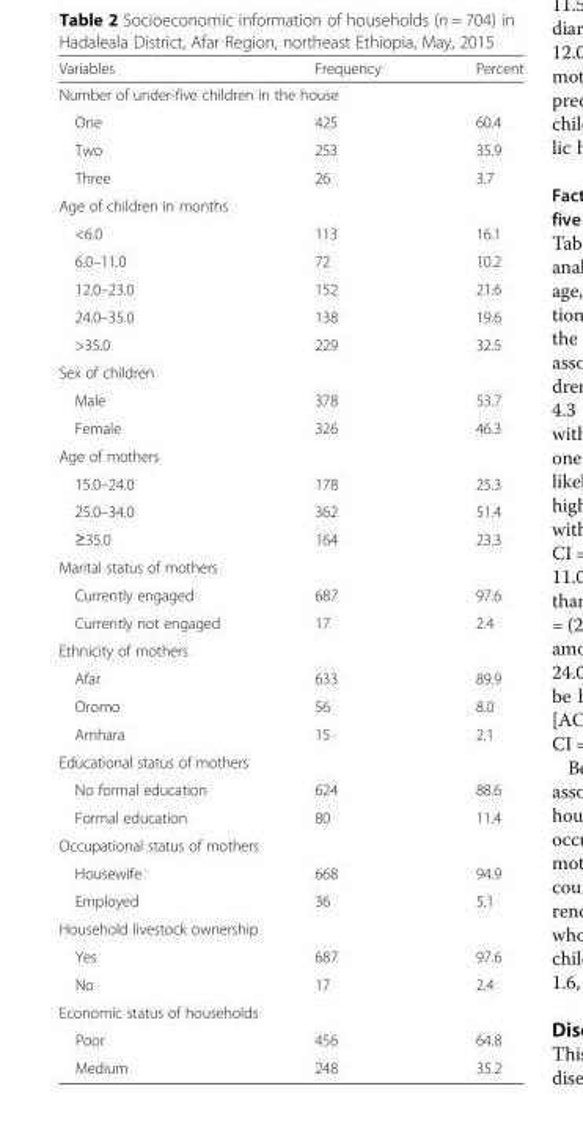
<table><thead><tr><td>Variables</td><td>Frequency</td><td>Percent</td></tr></thead><tbody><tr><td colspan="3">Number of under-five children in the house</td></tr><tr><td>One</td><td>425</td><td>60.4</td></tr><tr><td>Two</td><td>253</td><td>35.9</td></tr><tr><td>Three</td><td>26</td><td>3.7</td></tr><tr><td colspan="3">Age of children in months</td></tr><tr><td>&lt;6.0</td><td>113</td><td>16.1</td></tr><tr><td>6.0–11.0</td><td>72</td><td>10.2</td></tr><tr><td>12.0–23.0</td><td>152</td><td>21.6</td></tr><tr><td>24.0–35.0</td><td>138</td><td>19.6</td></tr><tr><td>&gt;35.0</td><td>229</td><td>32.5</td></tr><tr><td colspan="3">Sex of children</td></tr><tr><td>Male</td><td>378</td><td>53.7</td></tr><tr><td>Female</td><td>326</td><td>46.3</td></tr><tr><td colspan="3">Age of mothers</td></tr><tr><td>15.0–24.0</td><td>178</td><td>25.3</td></tr><tr><td>25.0–34.0</td><td>362</td><td>51.4</td></tr><tr><td>≥35.0</td><td>164</td><td>23.3</td></tr><tr><td colspan="3">Marital status of mothers</td></tr><tr><td>Currently engaged</td><td>687</td><td>97.6</td></tr><tr><td>Currently not engaged</td><td>17</td><td>2.4</td></tr><tr><td colspan="3">Ethnicity of mothers</td></tr><tr><td>Afar</td><td>633</td><td>89.9</td></tr><tr><td>Oromo</td><td>56</td><td>8.0</td></tr><tr><td>Amhara</td><td>15</td><td>2.1</td></tr><tr><td colspan="3">Educational status of mothers</td></tr><tr><td>No formal education</td><td>624</td><td>88.6</td></tr><tr><td>Formal education</td><td>80</td><td>11.4</td></tr><tr><td colspan="3">Occupational status of mothers</td></tr><tr><td>Housewife</td><td>668</td><td>94.9</td></tr><tr><td>Employed</td><td>36</td><td>5.1</td></tr><tr><td colspan="3">Household livestock ownership</td></tr><tr><td>Yes</td><td>687</td><td>97.6</td></tr><tr><td>No</td><td>17</td><td>2.4</td></tr><tr><td colspan="3">Economic status of households</td></tr><tr><td>Poor</td><td>456</td><td>64.8</td></tr><tr><td>Medium</td><td>248</td><td>35.2</td></tr></tbody></table>